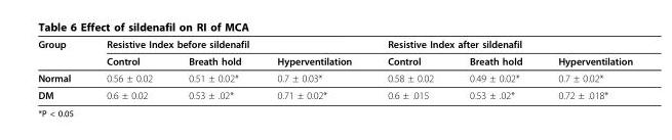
<table><thead><tr><td rowspan="2">Group</td><td colspan="3">Resistive Index before sildenafil</td><td colspan="3">Resistive Index after sildenafil</td></tr><tr><td>Control</td><td>Breath hold</td><td>Hyperventilation</td><td>Control</td><td>Breath hold</td><td>Hyperventilation</td></tr></thead><tbody><tr><td>Normal</td><td>0.56 ± 0.02</td><td>0.51 ± 0.02*</td><td>0.7 ± 0.03*</td><td>0.58 ± 0.02</td><td>0.49 ± 0.02*</td><td>0.7 ± 0.02*</td></tr><tr><td>DM</td><td>0.6 ± 0.02</td><td>0.53 ± .02*</td><td>0.71 ± 0.02*</td><td>0.6 ± .015</td><td>0.53 ± .02*</td><td>0.72 ± .018*</td></tr></tbody></table>